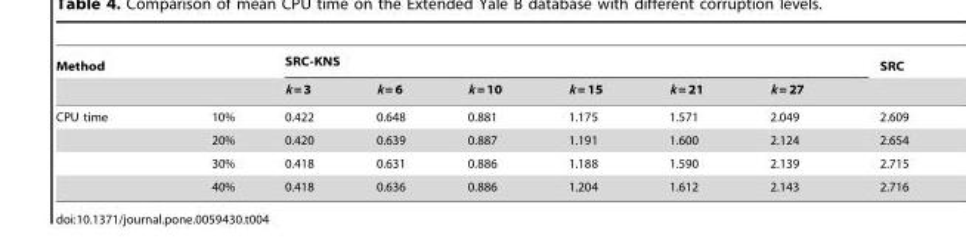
<table><thead><tr><td colspan="2">Method</td><td colspan="6">SRC-KNS</td><td rowspan="2">SRC</td></tr><tr><td></td><td></td><td>k = 3</td><td>k = 6</td><td>k = 10</td><td>k = 15</td><td>k = 21</td><td>k = 27</td></tr></thead><tbody><tr><td rowspan="4">CPU time</td><td>10%</td><td>0.422</td><td>0.648</td><td>0.881</td><td>1.175</td><td>1.571</td><td>2.049</td><td>2.609</td></tr><tr><td>20%</td><td>0.420</td><td>0.639</td><td>0.887</td><td>1.191</td><td>1.600</td><td>2.124</td><td>2.654</td></tr><tr><td>30%</td><td>0.418</td><td>0.631</td><td>0.886</td><td>1.188</td><td>1.590</td><td>2.139</td><td>2.715</td></tr><tr><td>40%</td><td>0.418</td><td>0.636</td><td>0.886</td><td>1.204</td><td>1.612</td><td>2.143</td><td>2.716</td></tr></tbody></table>